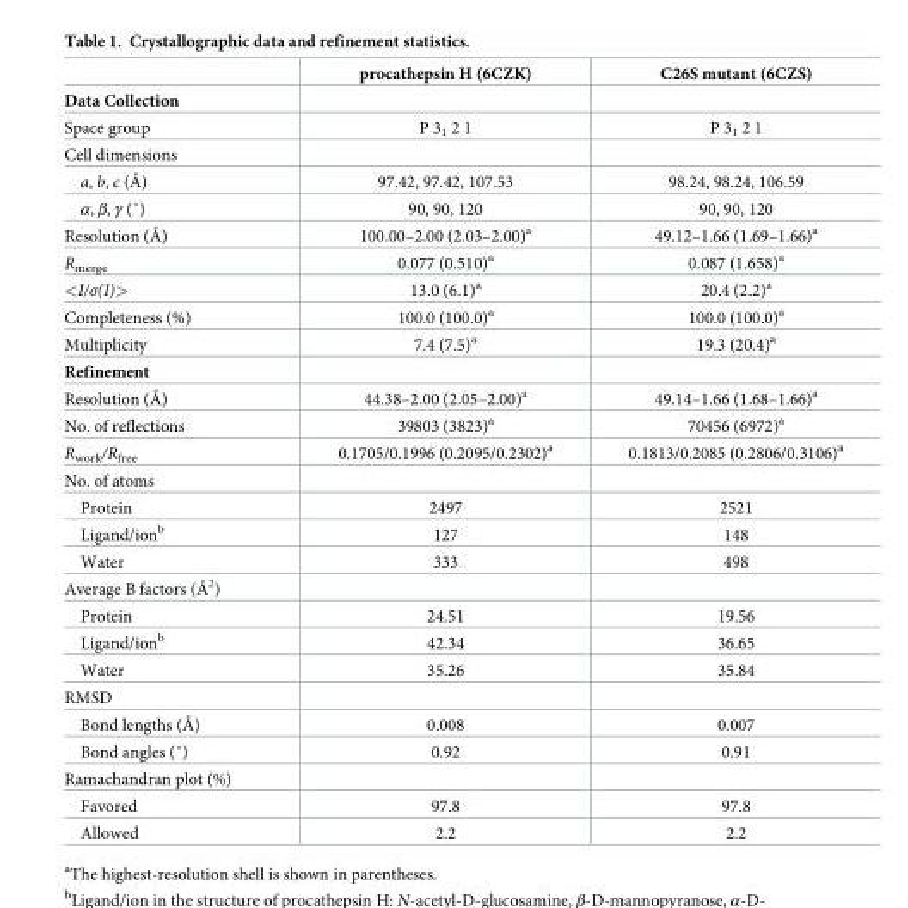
<table><thead><tr><td></td><td>procathepsin H (6CZK)</td><td>C26S mutant (6CZS)</td></tr></thead><tbody><tr><td colspan="3">Data Collection</td></tr><tr><td>Space group</td><td>P 3<sub>1</sub> 2 1</td><td>P 3<sub>1</sub> 2 1</td></tr><tr><td colspan="3">Cell dimensions</td></tr><tr><td>a, b, c (Å)</td><td>97.42, 97.42, 107.53</td><td>98.24, 98.24, 106.59</td></tr><tr><td>α, β, γ (˚)</td><td>90, 90, 120</td><td>90, 90, 120</td></tr><tr><td>Resolution (Å)</td><td>100.00–2.00 (2.03–2.00)<sup>a</sup></td><td>49.12–1.66 (1.69–1.66)<sup>a</sup></td></tr><tr><td>R<sub>merge</sub></td><td>0.077 (0.510)<sup>a</sup></td><td>0.087 (1.658)<sup>a</sup></td></tr><tr><td>&lt;I/σ(I)&gt;</td><td>13.0 (6.1)<sup>a</sup></td><td>20.4 (2.2)<sup>a</sup></td></tr><tr><td>Completeness (%)</td><td>100.0 (100.0)<sup>a</sup></td><td>100.0 (100.0)<sup>a</sup></td></tr><tr><td>Multiplicity</td><td>7.4 (7.5)<sup>a</sup></td><td>19.3 (20.4)<sup>a</sup></td></tr><tr><td colspan="3">Refinement</td></tr><tr><td>Resolution (Å)</td><td>44.38–2.00 (2.05–2.00)<sup>a</sup></td><td>49.14–1.66 (1.68–1.66)<sup>a</sup></td></tr><tr><td>No. of reflections</td><td>39803 (3823)<sup>a</sup></td><td>70456 (6972)<sup>a</sup></td></tr><tr><td>R<sub>work</sub>/R<sub>free</sub></td><td>0.1705/0.1996 (0.2095/0.2302)<sup>a</sup></td><td>0.1813/0.2085 (0.2806/0.3106)<sup>a</sup></td></tr><tr><td colspan="3">No. of atoms</td></tr><tr><td>Protein</td><td>2497</td><td>2521</td></tr><tr><td>Ligand/ion<sup>b</sup></td><td>127</td><td>148</td></tr><tr><td>Water</td><td>333</td><td>498</td></tr><tr><td colspan="3">Average B factors (Å<sup>2</sup>)</td></tr><tr><td>Protein</td><td>24.51</td><td>19.56</td></tr><tr><td>Ligand/ion<sup>b</sup></td><td>42.34</td><td>36.65</td></tr><tr><td>Water</td><td>35.26</td><td>35.84</td></tr><tr><td colspan="3">RMSD</td></tr><tr><td>Bond lengths (Å)</td><td>0.008</td><td>0.007</td></tr><tr><td>Bond angles (˚)</td><td>0.92</td><td>0.91</td></tr><tr><td colspan="3">Ramachandran plot (%)</td></tr><tr><td>Favored</td><td>97.8</td><td>97.8</td></tr><tr><td>Allowed</td><td>2.2</td><td>2.2</td></tr></tbody></table>